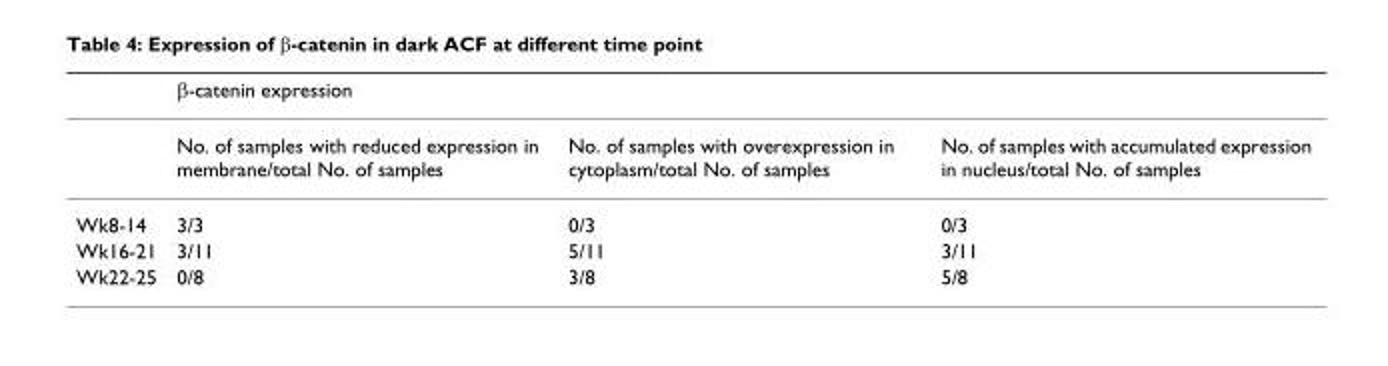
<table><thead><tr><td rowspan="2"></td><td colspan="3">β-catenin expression</td></tr><tr><td>No. of samples with reduced expression in membrane/total No. of samples</td><td>No. of samples with overexpression in cytoplasm/total No. of samples</td><td>No. of samples with accumulated expression in nucleus/total No. of samples</td></tr></thead><tbody><tr><td>Wk8-14</td><td>3/3</td><td>0/3</td><td>0/3</td></tr><tr><td>Wk16-21</td><td>3/11</td><td>5/11</td><td>3/11</td></tr><tr><td>Wk22-25</td><td>0/8</td><td>3/8</td><td>5/8</td></tr></tbody></table>